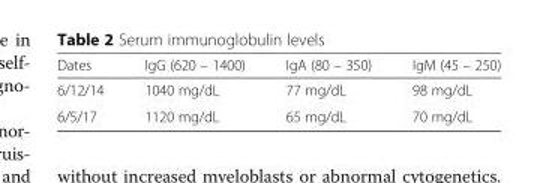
<table><thead><tr><td>Dates</td><td>IgG (620 – 1400)</td><td>IgA (80 – 350)</td><td>IgM (45 – 250)</td></tr></thead><tbody><tr><td>6/12/14</td><td>1040 mg/dL</td><td>77 mg/dL</td><td>98 mg/dL</td></tr><tr><td>6/5/17</td><td>1120 mg/dL</td><td>65 mg/dL</td><td>70 mg/dL</td></tr></tbody></table>